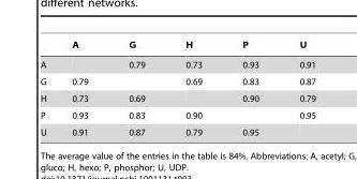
<table><thead><tr><td></td><td>A</td><td>G</td><td>H</td><td>P</td><td>U</td></tr></thead><tbody><tr><td>A</td><td></td><td>0.79</td><td>0.73</td><td>0.93</td><td>0.91</td></tr><tr><td>G</td><td>0.79</td><td></td><td>0.69</td><td>0.83</td><td>0.87</td></tr><tr><td>H</td><td>0.73</td><td>0.69</td><td></td><td>0.90</td><td>0.79</td></tr><tr><td>P</td><td>0.93</td><td>0.83</td><td>0.90</td><td></td><td>0.95</td></tr><tr><td>U</td><td>0.91</td><td>0.87</td><td>0.79</td><td>0.95</td><td></td></tr></tbody></table>